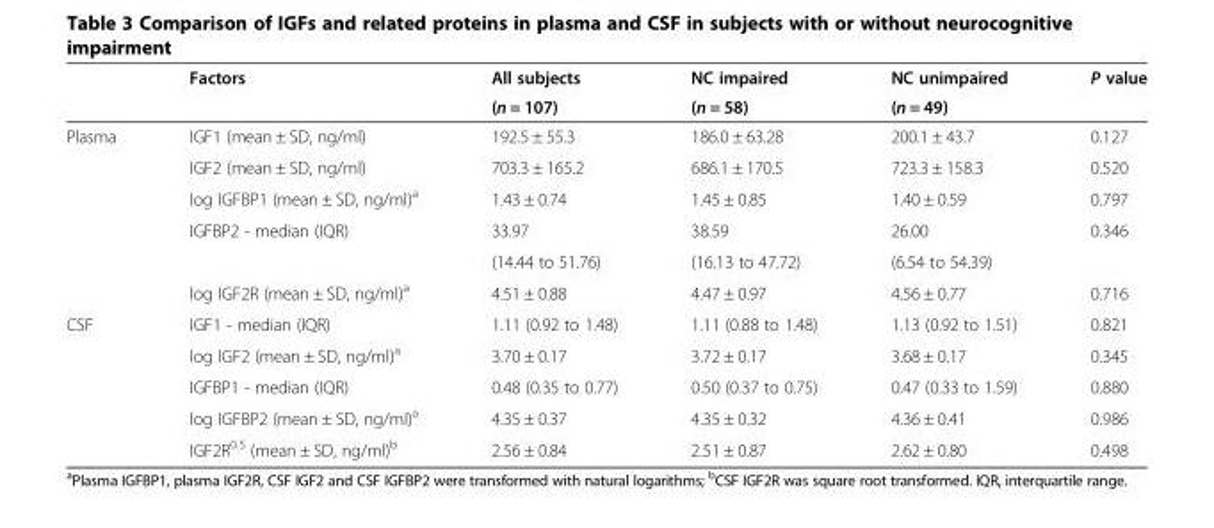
<table><thead><tr><td rowspan="2"></td><td rowspan="2">Factors</td><td rowspan="2">All subjects (n = 107)</td><td rowspan="2">NC impaired (n = 58)</td><td rowspan="2">NC unimpaired (n = 49)</td><td rowspan="2">P value</td></tr><tr></tr></thead><tbody><tr><td rowspan="6">Plasma</td><td>IGF1 (mean ± SD, ng/ml)</td><td>192.5 ± 55.3</td><td>186.0 ± 63.28</td><td>200.1 ± 43.7</td><td>0.127</td></tr><tr><td>IGF2 (mean ± SD, ng/ml)</td><td>703.3 ± 165.2</td><td>686.1 ± 170.5</td><td>723.3 ± 158.3</td><td>0.520</td></tr><tr><td>log IGFBP1 (mean ± SD, ng/ml)<sup>a</sup></td><td>1.43 ± 0.74</td><td>1.45 ± 0.85</td><td>1.40 ± 0.59</td><td>0.797</td></tr><tr><td rowspan="2">IGFBP2 - median (IQR)</td><td>33.97</td><td>38.59</td><td>26.00</td><td rowspan="2">0.346</td></tr><tr><td>(14.44 to 51.76)</td><td>(16.13 to 47.72)</td><td>(6.54 to 54.39)</td></tr><tr><td>log IGF2R (mean ± SD, ng/ml)<sup>a</sup></td><td>4.51 ± 0.88</td><td>4.47 ± 0.97</td><td>4.56 ± 0.77</td><td>0.716</td></tr><tr><td rowspan="5">CSF</td><td>IGF1 - median (IQR)</td><td>1.11 (0.92 to 1.48)</td><td>1.11 (0.88 to 1.48)</td><td>1.13 (0.92 to 1.51)</td><td>0.821</td></tr><tr><td>log IGF2 (mean ± SD, ng/ml)<sup>a</sup></td><td>3.70 ± 0.17</td><td>3.72 ± 0.17</td><td>3.68 ± 0.17</td><td>0.345</td></tr><tr><td>IGFBP1 - median (IQR)</td><td>0.48 (0.35 to 0.77)</td><td>0.50 (0.37 to 0.75)</td><td>0.47 (0.33 to 1.59)</td><td>0.880</td></tr><tr><td>log IGFBP2 (mean ± SD, ng/ml)<sup>a</sup></td><td>4.35 ± 0.37</td><td>4.35 ± 0.32</td><td>4.36 ± 0.41</td><td>0.986</td></tr><tr><td>IGF2R<sup>0.5</sup> (mean ± SD, ng/ml)<sup>b</sup></td><td>2.56 ± 0.84</td><td>2.51 ± 0.87</td><td>2.62 ± 0.80</td><td>0.498</td></tr></tbody></table>